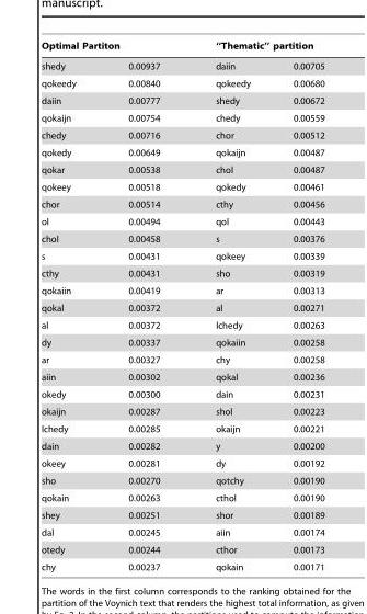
<table><thead><tr><td colspan="2">Optimal Partiton</td><td colspan="2">‘‘Thematic’’ partition</td></tr><tr><td>shedy</td><td>0.00937</td><td>daiin</td><td>0.00705</td></tr></thead><tbody><tr><td>qokeedy</td><td>0.00840</td><td>qokeedy</td><td>0.00680</td></tr><tr><td>daiin</td><td>0.00777</td><td>shedy</td><td>0.00672</td></tr><tr><td>qokaijn</td><td>0.00754</td><td>chedy</td><td>0.00559</td></tr><tr><td>chedy</td><td>0.00716</td><td>chor</td><td>0.00512</td></tr><tr><td>qokedy</td><td>0.00649</td><td>qokaijn</td><td>0.00487</td></tr><tr><td>qokar</td><td>0.00538</td><td>chol</td><td>0.00487</td></tr><tr><td>qokeey</td><td>0.00518</td><td>qokedy</td><td>0.00461</td></tr><tr><td>chor</td><td>0.00514</td><td>cthy</td><td>0.00456</td></tr><tr><td>ol</td><td>0.00494</td><td>qol</td><td>0.00443</td></tr><tr><td>chol</td><td>0.00458</td><td>s</td><td>0.00376</td></tr><tr><td>s</td><td>0.00431</td><td>qokeey</td><td>0.00339</td></tr><tr><td>cthy</td><td>0.00431</td><td>sho</td><td>0.00319</td></tr><tr><td>qokaiin</td><td>0.00419</td><td>ar</td><td>0.00313</td></tr><tr><td>qokal</td><td>0.00372</td><td>al</td><td>0.00271</td></tr><tr><td>al</td><td>0.00372</td><td>lchedy</td><td>0.00263</td></tr><tr><td>dy</td><td>0.00337</td><td>qokaiin</td><td>0.00258</td></tr><tr><td>ar</td><td>0.00327</td><td>chy</td><td>0.00258</td></tr><tr><td>aiin</td><td>0.00302</td><td>qokal</td><td>0.00236</td></tr><tr><td>okedy</td><td>0.00300</td><td>dain</td><td>0.00231</td></tr><tr><td>okaijn</td><td>0.00287</td><td>shol</td><td>0.00223</td></tr><tr><td>lchedy</td><td>0.00285</td><td>okaijn</td><td>0.00221</td></tr><tr><td>dain</td><td>0.00282</td><td>y</td><td>0.00200</td></tr><tr><td>okeey</td><td>0.00281</td><td>dy</td><td>0.00192</td></tr><tr><td>sho</td><td>0.00270</td><td>qotchy</td><td>0.00190</td></tr><tr><td>qokain</td><td>0.00263</td><td>cthol</td><td>0.00190</td></tr><tr><td>shey</td><td>0.00251</td><td>shor</td><td>0.00189</td></tr><tr><td>dal</td><td>0.00245</td><td>aiin</td><td>0.00174</td></tr><tr><td>otedy</td><td>0.00244</td><td>cthor</td><td>0.00173</td></tr><tr><td>chy</td><td>0.00237</td><td>qokain</td><td>0.00171</td></tr></tbody></table>